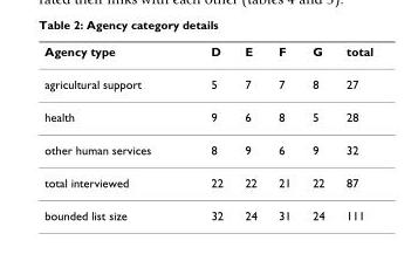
<table><thead><tr><td>Agency type</td><td>D</td><td>E</td><td>F</td><td>G</td><td>total</td></tr></thead><tbody><tr><td>agricultural support</td><td>5</td><td>7</td><td>7</td><td>8</td><td>27</td></tr><tr><td>health</td><td>9</td><td>6</td><td>8</td><td>5</td><td>28</td></tr><tr><td>other human services</td><td>8</td><td>9</td><td>6</td><td>9</td><td>32</td></tr><tr><td>total interviewed</td><td>22</td><td>22</td><td>21</td><td>22</td><td>87</td></tr><tr><td>bounded list size</td><td>32</td><td>24</td><td>31</td><td>24</td><td>111</td></tr></tbody></table>